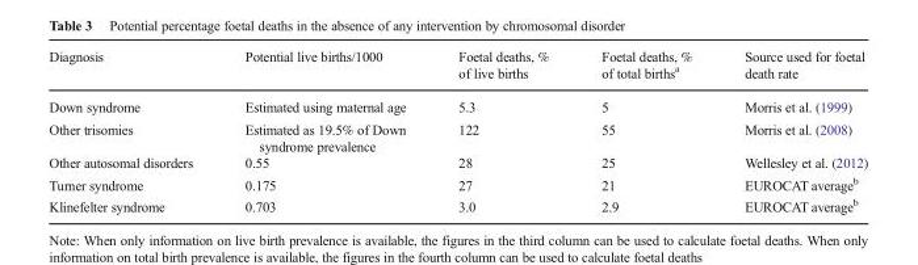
<table><thead><tr><td>Diagnosis</td><td>Potential live births/1000</td><td>Foetal deaths, % of live births</td><td>Foetal deaths, % of total births<sup>a</sup></td><td>Source used for foetal death rate</td></tr></thead><tbody><tr><td>Down syndrome</td><td>Estimated using maternal age</td><td>5.3</td><td>5</td><td>Morris et al. (1999)</td></tr><tr><td>Other trisomies</td><td>Estimated as 19.5% of Down syndrome prevalence</td><td>122</td><td>55</td><td>Morris et al. (2008)</td></tr><tr><td>Other autosomal disorders</td><td>0.55</td><td>28</td><td>25</td><td>Wellesley et al. (2012)</td></tr><tr><td>Turner syndrome</td><td>0.175</td><td>27</td><td>21</td><td>EUROCAT average<sup>b</sup></td></tr><tr><td>Klinefelter syndrome</td><td>0.703</td><td>3.0</td><td>2.9</td><td>EUROCAT average<sup>b</sup></td></tr></tbody></table>